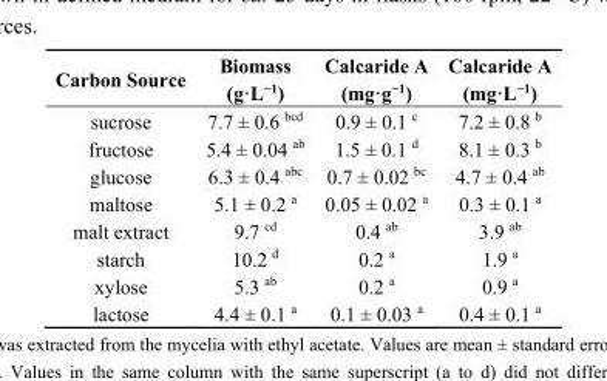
<table><thead><tr><td>Carbon Source</td><td>Biomass (g·L<sup>−1</sup>)</td><td>Calcaride A (mg·g<sup>−1</sup>)</td><td>Calcaride A (mg·L<sup>−1</sup>)</td></tr></thead><tbody><tr><td>sucrose</td><td>7.7 ± 0.6 <sup>bcd</sup></td><td>0.9 ± 0.1 <sup>c</sup></td><td>7.2 ± 0.8 <sup>b</sup></td></tr><tr><td>fructose</td><td>5.4 ± 0.04 <sup>ab</sup></td><td>1.5 ± 0.1 <sup>d</sup></td><td>8.1 ± 0.3 <sup>b</sup></td></tr><tr><td>glucose</td><td>6.3 ± 0.4 <sup>abc</sup></td><td>0.7 ± 0.02 <sup>bc</sup></td><td>4.7 ± 0.4 <sup>ab</sup></td></tr><tr><td>maltose</td><td>5.1 ± 0.2 <sup>a</sup></td><td>0.05 ± 0.02 <sup>a</sup></td><td>0.3 ± 0.1 <sup>a</sup></td></tr><tr><td>malt extract</td><td>9.7 <sup>cd</sup></td><td>0.4 <sup>ab</sup></td><td>3.9 <sup>ab</sup></td></tr><tr><td>starch</td><td>10.2 <sup>d</sup></td><td>0.2 <sup>a</sup></td><td>1.9 <sup>a</sup></td></tr><tr><td>xylose</td><td>5.3 <sup>ab</sup></td><td>0.2 <sup>a</sup></td><td>0.9 <sup>a</sup></td></tr><tr><td>lactose</td><td>4.4 ± 0.1 <sup>a</sup></td><td>0.1 ± 0.03 <sup>a</sup></td><td>0.4 ± 0.1 <sup>a</sup></td></tr></tbody></table>